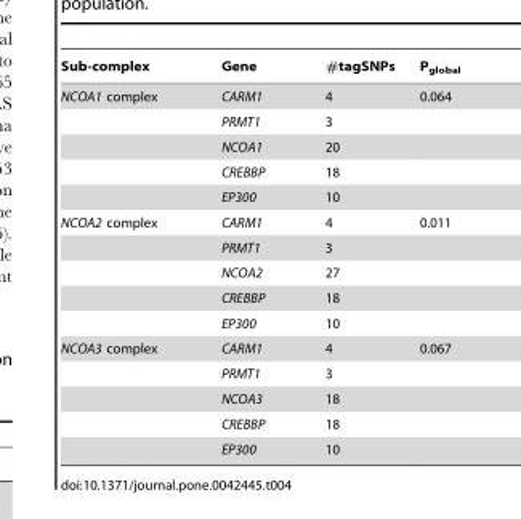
<table><thead><tr><td>Sub-complex</td><td>Gene</td><td>#tagSNPs</td><td>P<sub>global</sub></td></tr></thead><tbody><tr><td rowspan="5">NCOA1 complex</td><td>CARM1</td><td>4</td><td>0.064</td></tr><tr><td>PRMT1</td><td>3</td><td></td></tr><tr><td>NCOA1</td><td>20</td><td></td></tr><tr><td>CREBBP</td><td>18</td><td></td></tr><tr><td>EP300</td><td>10</td><td></td></tr><tr><td rowspan="5">NCOA2 complex</td><td>CARM1</td><td>4</td><td>0.011</td></tr><tr><td>PRMT1</td><td>3</td><td></td></tr><tr><td>NCOA2</td><td>27</td><td></td></tr><tr><td>CREBBP</td><td>18</td><td></td></tr><tr><td>EP300</td><td>10</td><td></td></tr><tr><td rowspan="5">NCOA3 complex</td><td>CARM1</td><td>4</td><td>0.067</td></tr><tr><td>PRMT1</td><td>3</td><td></td></tr><tr><td>NCOA3</td><td>18</td><td></td></tr><tr><td>CREBBP</td><td>18</td><td></td></tr><tr><td>EP300</td><td>10</td><td></td></tr></tbody></table>